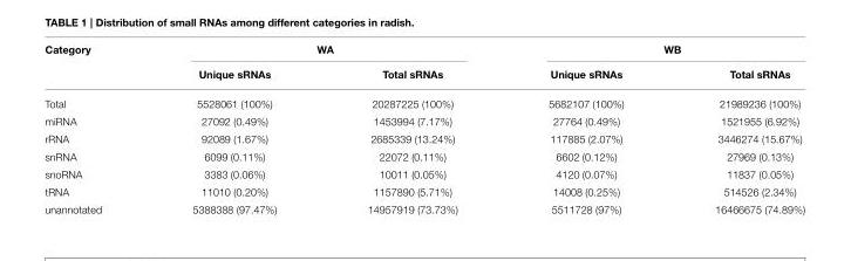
<table><thead><tr><td rowspan="2">Category</td><td colspan="2">WA</td><td colspan="2">WB</td></tr><tr><td>Unique sRNAs</td><td>Total sRNAs</td><td>Unique sRNAs</td><td>Total sRNAs</td></tr></thead><tbody><tr><td>Total</td><td>5528061 (100%)</td><td>20287225 (100%)</td><td>5682107 (100%)</td><td>21989236 (100%)</td></tr><tr><td>miRNA</td><td>27092 (0.49%)</td><td>1453994 (7.17%)</td><td>27764 (0.49%)</td><td>1521955 (6.92%)</td></tr><tr><td>rRNA</td><td>92089 (1.67%)</td><td>2685339 (13.24%)</td><td>117885 (2.07%)</td><td>3446274 (15.67%)</td></tr><tr><td>snRNA</td><td>6099 (0.11%)</td><td>22072 (0.11%)</td><td>6602 (0.12%)</td><td>27969 (0.13%)</td></tr><tr><td>snoRNA</td><td>3383 (0.06%)</td><td>10011 (0.05%)</td><td>4120 (0.07%)</td><td>11837 (0.05%)</td></tr><tr><td>tRNA</td><td>11010 (0.20%)</td><td>1157890 (5.71%)</td><td>14008 (0.25%)</td><td>514526 (2.34%)</td></tr><tr><td>unannotated</td><td>5388388 (97.47%)</td><td>14957919 (73.73%)</td><td>5511728 (97%)</td><td>16466675 (74.89%)</td></tr></tbody></table>